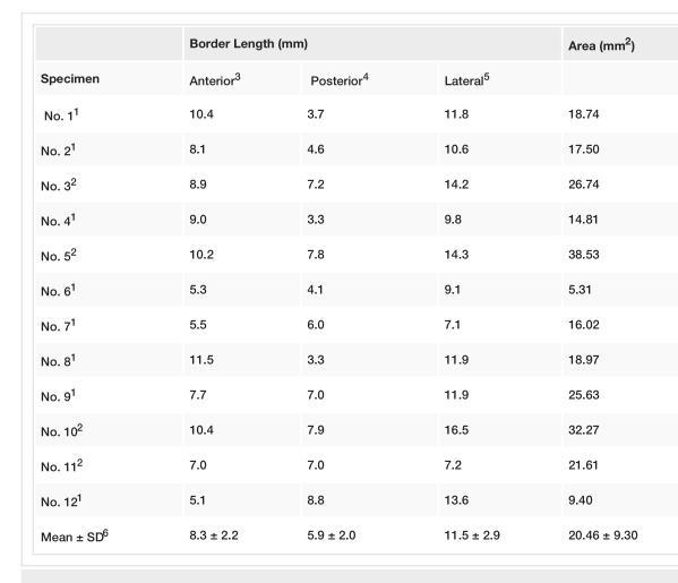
<table><thead><tr><td rowspan="2">Specimen</td><td colspan="3">Border Length (mm)</td><td rowspan="2">Area (mm<sup>2</sup>)</td></tr><tr><td>Anterior<sup>3</sup></td><td>Posterior<sup>4</sup></td><td>Lateral<sup>5</sup></td></tr></thead><tbody><tr><td>No. 1<sup>1</sup></td><td>10.4</td><td>3.7</td><td>11.8</td><td>18.74</td></tr><tr><td>No. 2<sup>1</sup></td><td>8.1</td><td>4.6</td><td>10.6</td><td>17.50</td></tr><tr><td>No. 3<sup>2</sup></td><td>8.9</td><td>7.2</td><td>14.2</td><td>26.74</td></tr><tr><td>No. 4<sup>1</sup></td><td>9.0</td><td>3.3</td><td>9.8</td><td>14.81</td></tr><tr><td>No. 5<sup>2</sup></td><td>10.2</td><td>7.8</td><td>14.3</td><td>38.53</td></tr><tr><td>No. 6<sup>1</sup></td><td>5.3</td><td>4.1</td><td>9.1</td><td>5.31</td></tr><tr><td>No. 7<sup>1</sup></td><td>5.5</td><td>6.0</td><td>7.1</td><td>16.02</td></tr><tr><td>No. 8<sup>1</sup></td><td>11.5</td><td>3.3</td><td>11.9</td><td>18.97</td></tr><tr><td>No. 9<sup>1</sup></td><td>7.7</td><td>7.0</td><td>11.9</td><td>25.63</td></tr><tr><td>No. 10<sup>2</sup></td><td>10.4</td><td>7.9</td><td>16.5</td><td>32.27</td></tr><tr><td>No. 11<sup>2</sup></td><td>7.0</td><td>7.0</td><td>7.2</td><td>21.61</td></tr><tr><td>No. 12<sup>1</sup></td><td>5.1</td><td>8.8</td><td>13.6</td><td>9.40</td></tr><tr><td>Mean ± SD<sup>6</sup></td><td>8.3 ± 2.2</td><td>5.9 ± 2.0</td><td>11.5 ± 2.9</td><td>20.46 ± 9.30</td></tr></tbody></table>